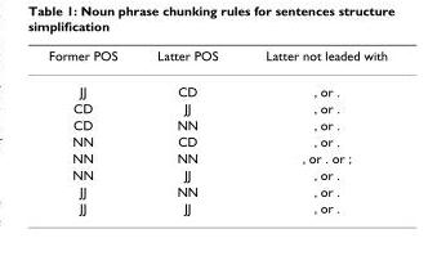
<table><thead><tr><td>Former POS</td><td>Latter POS</td><td>Latter not leaded with</td></tr></thead><tbody><tr><td>JJ</td><td>CD</td><td>, or .</td></tr><tr><td>CD</td><td>JJ</td><td>, or .</td></tr><tr><td>CD</td><td>NN</td><td>, or .</td></tr><tr><td>NN</td><td>CD</td><td>, or .</td></tr><tr><td>NN</td><td>NN</td><td>, or . or ;</td></tr><tr><td>NN</td><td>JJ</td><td>, or .</td></tr><tr><td>JJ</td><td>NN</td><td>, or .</td></tr><tr><td>JJ</td><td>JJ</td><td>, or .</td></tr></tbody></table>